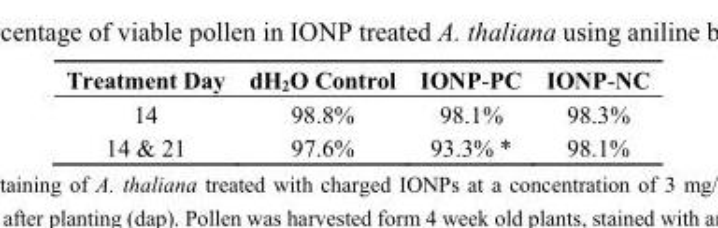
<table><thead><tr><td>Treatment Day</td><td>dH<sub>2</sub>O Control</td><td>IONP-PC</td><td>IONP-NC</td></tr></thead><tbody><tr><td>14</td><td>98.8%</td><td>98.1%</td><td>98.3%</td></tr><tr><td>14 &amp; 21</td><td>97.6%</td><td>93.3% *</td><td>98.1%</td></tr></tbody></table>